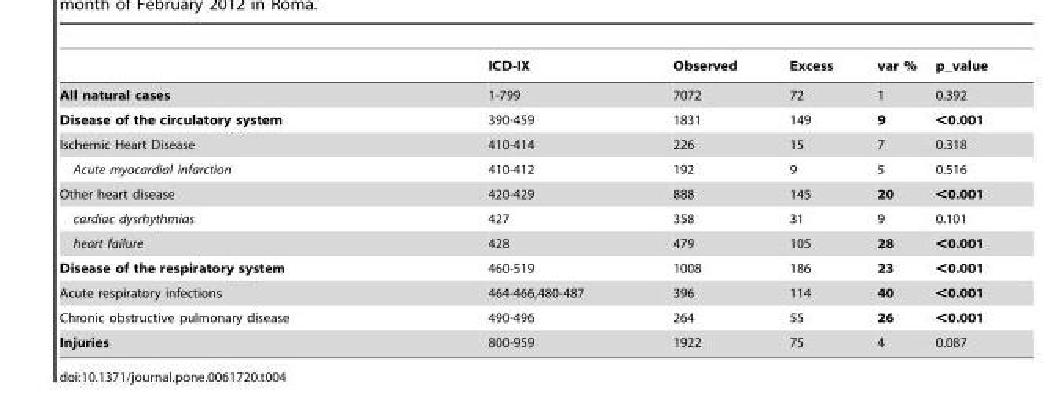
<table><thead><tr><td></td><td>ICD-IX</td><td>Observed</td><td>Excess</td><td>var %</td><td>p_value</td></tr></thead><tbody><tr><td>All natural cases</td><td>1-799</td><td>7072</td><td>72</td><td>1</td><td>0.392</td></tr><tr><td>Disease of the circulatory system</td><td>390-459</td><td>1831</td><td>149</td><td>9</td><td>&lt;0.001</td></tr><tr><td>Ischemic Heart Disease</td><td>410-414</td><td>226</td><td>15</td><td>7</td><td>0.318</td></tr><tr><td>Acute myocardial infarction</td><td>410-412</td><td>192</td><td>9</td><td>5</td><td>0.516</td></tr><tr><td>Other heart disease</td><td>420-429</td><td>888</td><td>145</td><td>20</td><td>&lt;0.001</td></tr><tr><td>cardiac dysrhythmias</td><td>427</td><td>358</td><td>31</td><td>9</td><td>0.101</td></tr><tr><td>heart failure</td><td>428</td><td>479</td><td>105</td><td>28</td><td>&lt;0.001</td></tr><tr><td>Disease of the respiratory system</td><td>460-519</td><td>1008</td><td>186</td><td>23</td><td>&lt;0.001</td></tr><tr><td>Acute respiratory infections</td><td>464-466,480-487</td><td>396</td><td>114</td><td>40</td><td>&lt;0.001</td></tr><tr><td>Chronic obstructive pulmonary disease</td><td>490-496</td><td>264</td><td>55</td><td>26</td><td>&lt;0.001</td></tr><tr><td>Injuries</td><td>800-959</td><td>1922</td><td>75</td><td>4</td><td>0.087</td></tr></tbody></table>